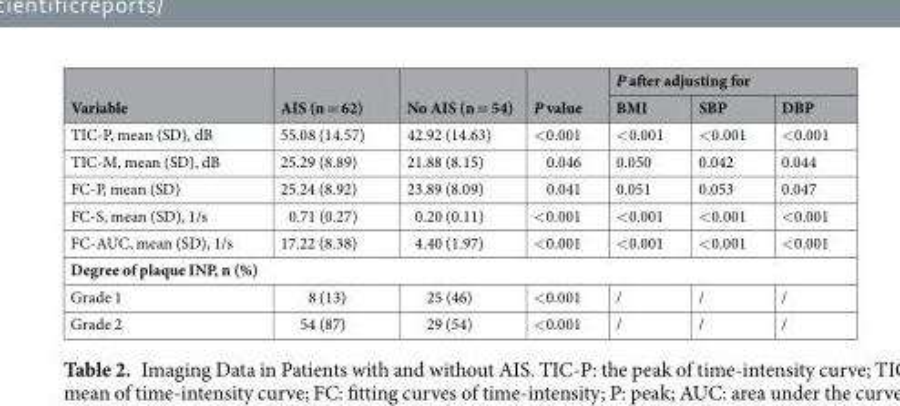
<table><thead><tr><td rowspan="2">Variable</td><td rowspan="2">AIS (n = 62)</td><td rowspan="2">No AIS (n = 54)</td><td rowspan="2">P value</td><td colspan="3">P after adjusting for</td></tr><tr><td>BMI</td><td>SBP</td><td>DBP</td></tr></thead><tbody><tr><td>TIC-P, mean (SD), dB</td><td>55.08 (14.57)</td><td>42.92 (14.63)</td><td>&lt;0.001</td><td>&lt;0.001</td><td>&lt;0.001</td><td>&lt;0.001</td></tr><tr><td>TIC-M, mean (SD), dB</td><td>25.29 (8.89)</td><td>21.88 (8.15)</td><td>0.046</td><td>0.050</td><td>0.042</td><td>0.044</td></tr><tr><td>FC-P, mean (SD)</td><td>25.24 (8.92)</td><td>23.89 (8.09)</td><td>0.041</td><td>0.051</td><td>0.053</td><td>0.047</td></tr><tr><td>FC-S, mean (SD), 1/s</td><td>0.71 (0.27)</td><td>0.20 (0.11)</td><td>&lt;0.001</td><td>&lt;0.001</td><td>&lt;0.001</td><td>&lt;0.001</td></tr><tr><td>FC-AUC, mean (SD), 1/s</td><td>17.22 (8.38)</td><td>4.40 (1.97)</td><td>&lt;0.001</td><td>&lt;0.001</td><td>&lt;0.001</td><td>&lt;0.001</td></tr><tr><td colspan="7">Degree of plaque INP, n (%)</td></tr><tr><td>Grade 1</td><td>8 (13)</td><td>25 (46)</td><td>&lt;0.001</td><td>/</td><td>/</td><td>/</td></tr><tr><td>Grade 2</td><td>54 (87)</td><td>29 (54)</td><td>&lt;0.001</td><td>/</td><td>/</td><td>/</td></tr></tbody></table>